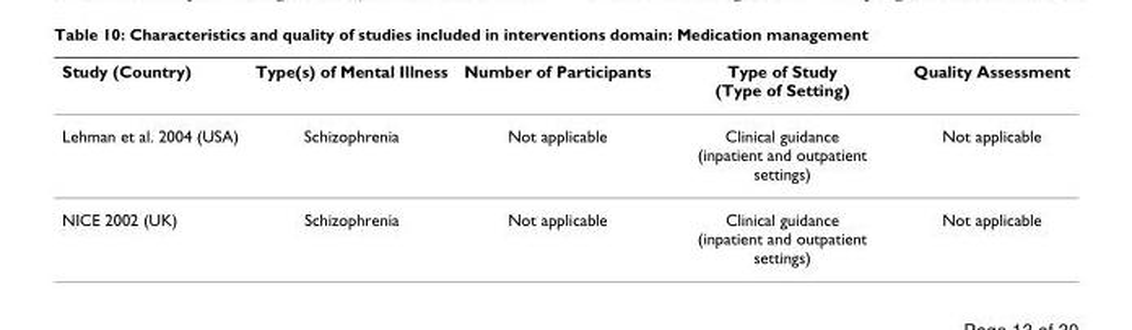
<table><thead><tr><td>Study (Country)</td><td>Type(s) of Mental Illness</td><td>Number of Participants</td><td>Type of Study (Type of Setting)</td><td>Quality Assessment</td></tr></thead><tbody><tr><td>Lehman et al. 2004 (USA)</td><td>Schizophrenia</td><td>Not applicable</td><td>Clinical guidance (inpatient and outpatient settings)</td><td>Not applicable</td></tr><tr><td>NICE 2002 (UK)</td><td>Schizophrenia</td><td>Not applicable</td><td>Clinical guidance (inpatient and outpatient settings)</td><td>Not applicable</td></tr></tbody></table>